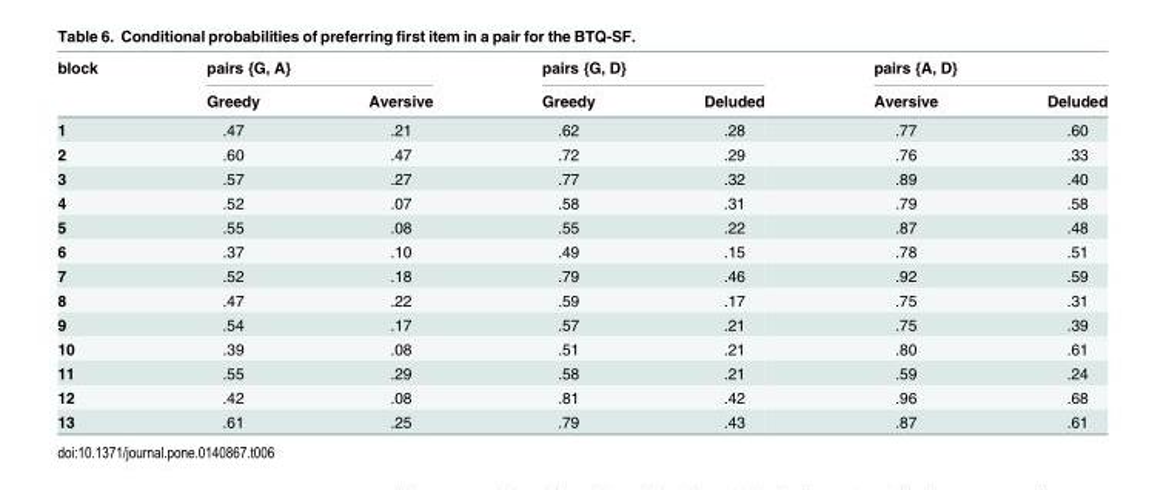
<table><thead><tr><td rowspan="2">block</td><td colspan="2">pairs {G, A}</td><td colspan="2">pairs {G, D}</td><td colspan="2">pairs {A, D}</td></tr><tr><td>Greedy</td><td>Aversive</td><td>Greedy</td><td>Deluded</td><td>Aversive</td><td>Deluded</td></tr></thead><tbody><tr><td>1</td><td>.47</td><td>.21</td><td>.62</td><td>.28</td><td>.77</td><td>.60</td></tr><tr><td>2</td><td>.60</td><td>.47</td><td>.72</td><td>.29</td><td>.76</td><td>.33</td></tr><tr><td>3</td><td>.57</td><td>.27</td><td>.77</td><td>.32</td><td>.89</td><td>.40</td></tr><tr><td>4</td><td>.52</td><td>.07</td><td>.58</td><td>.31</td><td>.79</td><td>.58</td></tr><tr><td>5</td><td>.55</td><td>.08</td><td>.55</td><td>.22</td><td>.87</td><td>.48</td></tr><tr><td>6</td><td>.37</td><td>.10</td><td>.49</td><td>.15</td><td>.78</td><td>.51</td></tr><tr><td>7</td><td>.52</td><td>.18</td><td>.79</td><td>.46</td><td>.92</td><td>.59</td></tr><tr><td>8</td><td>.47</td><td>.22</td><td>.59</td><td>.17</td><td>.75</td><td>.31</td></tr><tr><td>9</td><td>.54</td><td>.17</td><td>.57</td><td>.21</td><td>.75</td><td>.39</td></tr><tr><td>10</td><td>.39</td><td>.08</td><td>.51</td><td>.21</td><td>.80</td><td>.61</td></tr><tr><td>11</td><td>.55</td><td>.29</td><td>.58</td><td>.21</td><td>.59</td><td>.24</td></tr><tr><td>12</td><td>.42</td><td>.08</td><td>.81</td><td>.42</td><td>.96</td><td>.68</td></tr><tr><td>13</td><td>.61</td><td>.25</td><td>.79</td><td>.43</td><td>.87</td><td>.61</td></tr></tbody></table>